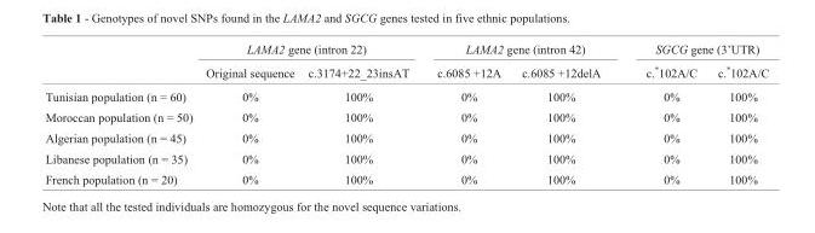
<table><thead><tr><td rowspan="2"></td><td colspan="2">LAMA2 gene (intron 22)</td><td colspan="2">LAMA2 gene (intron 42)</td><td colspan="2">SGCG gene (3’UTR)</td></tr><tr><td>Original sequence</td><td>c.3174+22_23insAT</td><td>c.6085 +12A</td><td>c.6085 +12delA</td><td>c.*102A/C</td><td>c.*102A/C</td></tr></thead><tbody><tr><td>Tunisian population (n = 60)</td><td>0%</td><td>100%</td><td>0%</td><td>100%</td><td>0%</td><td>100%</td></tr><tr><td>Moroccan population (n = 50)</td><td>0%</td><td>100%</td><td>0%</td><td>100%</td><td>0%</td><td>100%</td></tr><tr><td>Algerian population (n = 45)</td><td>0%</td><td>100%</td><td>0%</td><td>100%</td><td>0%</td><td>100%</td></tr><tr><td>Libanese population (n = 35)</td><td>0%</td><td>100%</td><td>0%</td><td>100%</td><td>0%</td><td>100%</td></tr><tr><td>French population (n = 20)</td><td>0%</td><td>100%</td><td>0%</td><td>100%</td><td>0%</td><td>100%</td></tr></tbody></table>